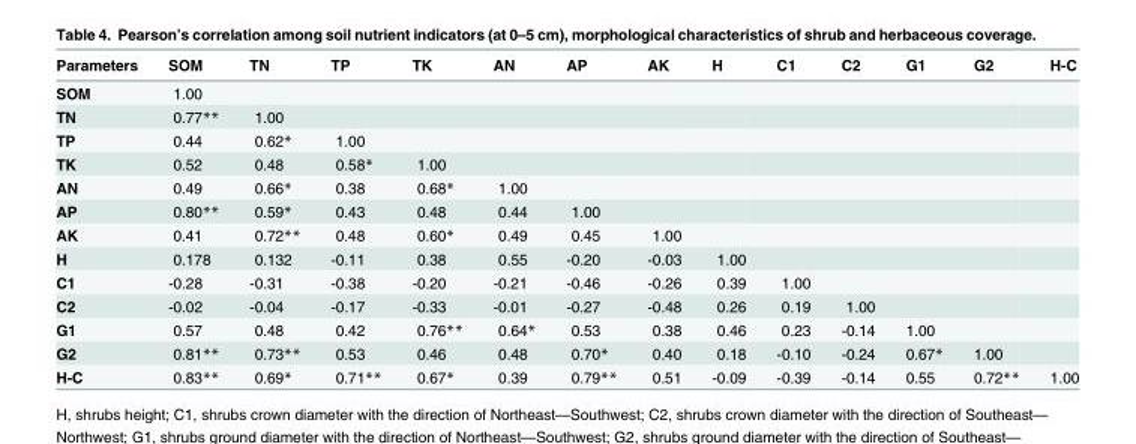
<table><thead><tr><td>Parameters</td><td>SOM</td><td>TN</td><td>TP</td><td>TK</td><td>AN</td><td>AP</td><td>AK</td><td>H</td><td>C1</td><td>C2</td><td>G1</td><td>G2</td><td>H-C</td></tr></thead><tbody><tr><td>SOM</td><td>1.00</td><td></td><td></td><td></td><td></td><td></td><td></td><td></td><td></td><td></td><td></td><td></td><td></td></tr><tr><td>TN</td><td>0.77**</td><td>1.00</td><td></td><td></td><td></td><td></td><td></td><td></td><td></td><td></td><td></td><td></td><td></td></tr><tr><td>TP</td><td>0.44</td><td>0.62*</td><td>1.00</td><td></td><td></td><td></td><td></td><td></td><td></td><td></td><td></td><td></td><td></td></tr><tr><td>TK</td><td>0.52</td><td>0.48</td><td>0.58*</td><td>1.00</td><td></td><td></td><td></td><td></td><td></td><td></td><td></td><td></td><td></td></tr><tr><td>AN</td><td>0.49</td><td>0.66*</td><td>0.38</td><td>0.68*</td><td>1.00</td><td></td><td></td><td></td><td></td><td></td><td></td><td></td><td></td></tr><tr><td>AP</td><td>0.80**</td><td>0.59*</td><td>0.43</td><td>0.48</td><td>0.44</td><td>1.00</td><td></td><td></td><td></td><td></td><td></td><td></td><td></td></tr><tr><td>AK</td><td>0.41</td><td>0.72**</td><td>0.48</td><td>0.60*</td><td>0.49</td><td>0.45</td><td>1.00</td><td></td><td></td><td></td><td></td><td></td><td></td></tr><tr><td>H</td><td>0.178</td><td>0.132</td><td>-0.11</td><td>0.38</td><td>0.55</td><td>-0.20</td><td>-0.03</td><td>1.00</td><td></td><td></td><td></td><td></td><td></td></tr><tr><td>C1</td><td>-0.28</td><td>-0.31</td><td>-0.38</td><td>-0.20</td><td>-0.21</td><td>-0.46</td><td>-0.26</td><td>0.39</td><td>1.00</td><td></td><td></td><td></td><td></td></tr><tr><td>C2</td><td>-0.02</td><td>-0.04</td><td>-0.17</td><td>-0.33</td><td>-0.01</td><td>-0.27</td><td>-0.48</td><td>0.26</td><td>0.19</td><td>1.00</td><td></td><td></td><td></td></tr><tr><td>G1</td><td>0.57</td><td>0.48</td><td>0.42</td><td>0.76**</td><td>0.64*</td><td>0.53</td><td>0.38</td><td>0.46</td><td>0.23</td><td>-0.14</td><td>1.00</td><td></td><td></td></tr><tr><td>G2</td><td>0.81**</td><td>0.73**</td><td>0.53</td><td>0.46</td><td>0.48</td><td>0.70*</td><td>0.40</td><td>0.18</td><td>-0.10</td><td>-0.24</td><td>0.67*</td><td>1.00</td><td></td></tr><tr><td>H-C</td><td>0.83**</td><td>0.69*</td><td>0.71**</td><td>0.67*</td><td>0.39</td><td>0.79**</td><td>0.51</td><td>-0.09</td><td>-0.39</td><td>-0.14</td><td>0.55</td><td>0.72**</td><td>1.00</td></tr></tbody></table>